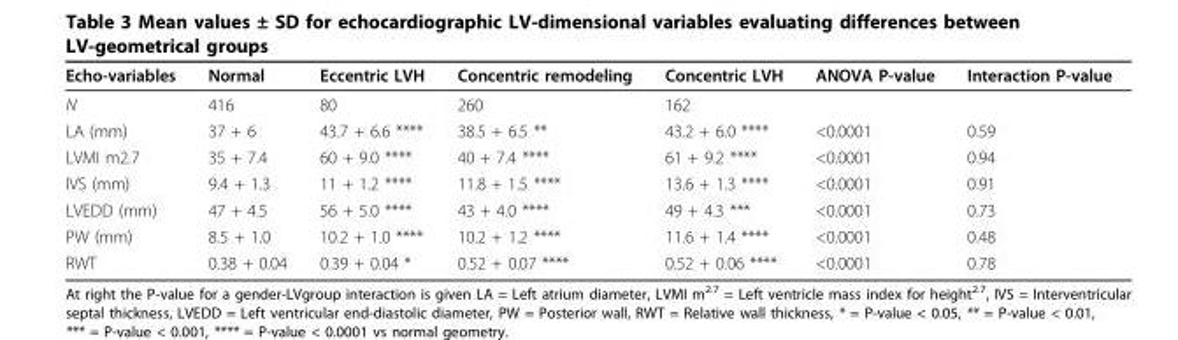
<table><thead><tr><td>Echo-variables</td><td>Normal</td><td>Eccentric LVH</td><td>Concentric remodeling</td><td>Concentric LVH</td><td>ANOVA P-value</td><td>Interaction P-value</td></tr></thead><tbody><tr><td>N</td><td>416</td><td>80</td><td>260</td><td>162</td><td></td><td></td></tr><tr><td>LA (mm)</td><td>37 + 6</td><td>43.7 + 6.6 ****</td><td>38.5 + 6.5 **</td><td>43.2 + 6.0 ****</td><td>&lt;0.0001</td><td>0.59</td></tr><tr><td>LVMI m2.7</td><td>35 + 7.4</td><td>60 + 9.0 ****</td><td>40 + 7.4 ****</td><td>61 + 9.2 ****</td><td>&lt;0.0001</td><td>0.94</td></tr><tr><td>IVS (mm)</td><td>9.4 + 1.3</td><td>11 + 1.2 ****</td><td>11.8 + 1.5 ****</td><td>13.6 + 1.3 ****</td><td>&lt;0.0001</td><td>0.91</td></tr><tr><td>LVEDD (mm)</td><td>47 + 4.5</td><td>56 + 5.0 ****</td><td>43 + 4.0 ****</td><td>49 + 4.3 ***</td><td>&lt;0.0001</td><td>0.73</td></tr><tr><td>PW (mm)</td><td>8.5 + 1.0</td><td>10.2 + 1.0 ****</td><td>10.2 + 1.2 ****</td><td>11.6 + 1.4 ****</td><td>&lt;0.0001</td><td>0.48</td></tr><tr><td>RWT</td><td>0.38 + 0.04</td><td>0.39 + 0.04 *</td><td>0.52 + 0.07 ****</td><td>0.52 + 0.06 ****</td><td>&lt;0.0001</td><td>0.78</td></tr></tbody></table>